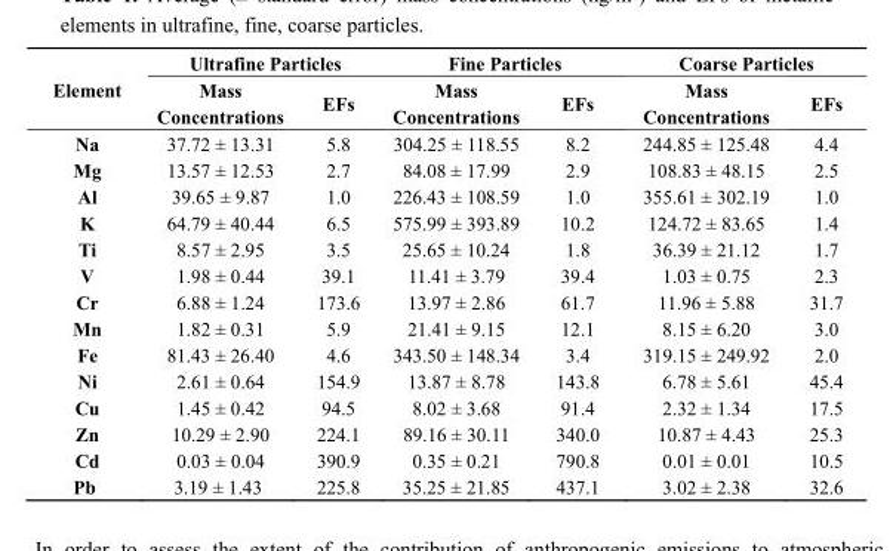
<table><thead><tr><td rowspan="2">Element</td><td colspan="2">Ultrafine Particles</td><td colspan="2">Fine Particles</td><td colspan="2">Coarse Particles</td></tr><tr><td>Mass Concentrations</td><td>EFs</td><td>Mass Concentrations</td><td>EFs</td><td>Mass Concentrations</td><td>EFs</td></tr></thead><tbody><tr><td>Na</td><td>37.72 ± 13.31</td><td>5.8</td><td>304.25 ± 118.55</td><td>8.2</td><td>244.85 ± 125.48</td><td>4.4</td></tr><tr><td>Mg</td><td>13.57 ± 12.53</td><td>2.7</td><td>84.08 ± 17.99</td><td>2.9</td><td>108.83 ± 48.15</td><td>2.5</td></tr><tr><td>Al</td><td>39.65 ± 9.87</td><td>1.0</td><td>226.43 ± 108.59</td><td>1.0</td><td>355.61 ± 302.19</td><td>1.0</td></tr><tr><td>K</td><td>64.79 ± 40.44</td><td>6.5</td><td>575.99 ± 393.89</td><td>10.2</td><td>124.72 ± 83.65</td><td>1.4</td></tr><tr><td>Ti</td><td>8.57 ± 2.95</td><td>3.5</td><td>25.65 ± 10.24</td><td>1.8</td><td>36.39 ± 21.12</td><td>1.7</td></tr><tr><td>V</td><td>1.98 ± 0.44</td><td>39.1</td><td>11.41 ± 3.79</td><td>39.4</td><td>1.03 ± 0.75</td><td>2.3</td></tr><tr><td>Cr</td><td>6.88 ± 1.24</td><td>173.6</td><td>13.97 ± 2.86</td><td>61.7</td><td>11.96 ± 5.88</td><td>31.7</td></tr><tr><td>Mn</td><td>1.82 ± 0.31</td><td>5.9</td><td>21.41 ± 9.15</td><td>12.1</td><td>8.15 ± 6.20</td><td>3.0</td></tr><tr><td>Fe</td><td>81.43 ± 26.40</td><td>4.6</td><td>343.50 ± 148.34</td><td>3.4</td><td>319.15 ± 249.92</td><td>2.0</td></tr><tr><td>Ni</td><td>2.61 ± 0.64</td><td>154.9</td><td>13.87 ± 8.78</td><td>143.8</td><td>6.78 ± 5.61</td><td>45.4</td></tr><tr><td>Cu</td><td>1.45 ± 0.42</td><td>94.5</td><td>8.02 ± 3.68</td><td>91.4</td><td>2.32 ± 1.34</td><td>17.5</td></tr><tr><td>Zn</td><td>10.29 ± 2.90</td><td>224.1</td><td>89.16 ± 30.11</td><td>340.0</td><td>10.87 ± 4.43</td><td>25.3</td></tr><tr><td>Cd</td><td>0.03 ± 0.04</td><td>390.9</td><td>0.35 ± 0.21</td><td>790.8</td><td>0.01 ± 0.01</td><td>10.5</td></tr><tr><td>Pb</td><td>3.19 ± 1.43</td><td>225.8</td><td>35.25 ± 21.85</td><td>437.1</td><td>3.02 ± 2.38</td><td>32.6</td></tr></tbody></table>